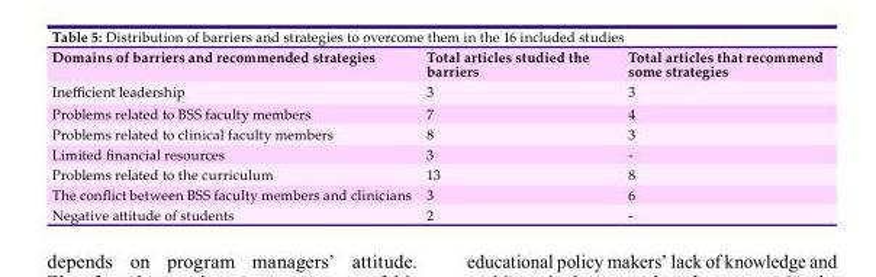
<table><thead><tr><td>Domains of barriers and recommended strategies</td><td>Total articles studied the barriers</td><td>Total articles that recommend some strategies</td></tr></thead><tbody><tr><td>Inefficient leadership</td><td>3</td><td>3</td></tr><tr><td>Problems related to BSS faculty members</td><td>7</td><td>4</td></tr><tr><td>Problems related to clinical faculty members</td><td>8</td><td>3</td></tr><tr><td>Limited financial resources</td><td>3</td><td>-</td></tr><tr><td>Problems related to the curriculum</td><td>13</td><td>8</td></tr><tr><td>The conflict between BSS faculty members and clinicians</td><td>3</td><td>6</td></tr><tr><td>Negative attitude of students</td><td>2</td><td>-</td></tr></tbody></table>